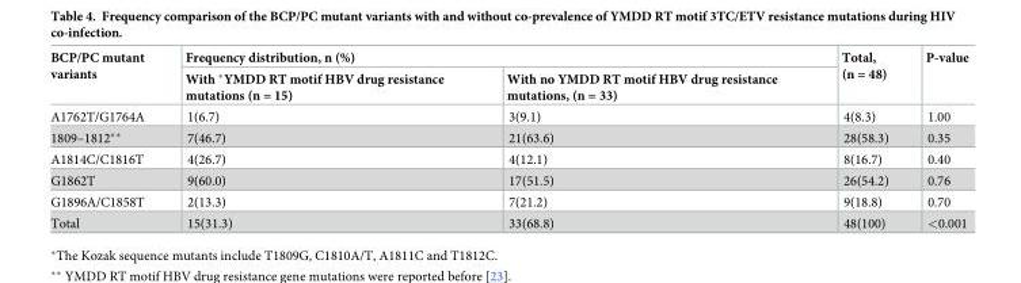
<table><thead><tr><td rowspan="2">BCP/PC mutant variants</td><td colspan="2">Frequency distribution, n (%)</td><td rowspan="2">Total, (n = 48)</td><td rowspan="2">P-value</td></tr><tr><td>With *YMDD RT motif HBV drug resistance mutations (n = 15)</td><td>With no YMDD RT motif HBV drug resistance mutations, (n = 33)</td></tr></thead><tbody><tr><td>A1762T/G1764A</td><td>1(6.7)</td><td>3(9.1)</td><td>4(8.3)</td><td>1.00</td></tr><tr><td>1809–1812**</td><td>7(46.7)</td><td>21(63.6)</td><td>28(58.3)</td><td>0.35</td></tr><tr><td>A1814C/C1816T</td><td>4(26.7)</td><td>4(12.1)</td><td>8(16.7)</td><td>0.40</td></tr><tr><td>G1862T</td><td>9(60.0)</td><td>17(51.5)</td><td>26(54.2)</td><td>0.76</td></tr><tr><td>G1896A/C1858T</td><td>2(13.3)</td><td>7(21.2)</td><td>9(18.8)</td><td>0.70</td></tr><tr><td>Total</td><td>15(31.3)</td><td>33(68.8)</td><td>48(100)</td><td>&lt;0.001</td></tr></tbody></table>